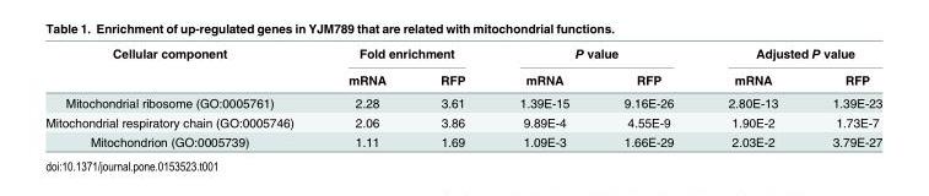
<table><thead><tr><td rowspan="2">Cellular component</td><td colspan="2">Fold enrichment</td><td colspan="2">P value</td><td colspan="2">Adjusted P value</td></tr><tr><td>mRNA</td><td>RFP</td><td>mRNA</td><td>RFP</td><td>mRNA</td><td>RFP</td></tr></thead><tbody><tr><td>Mitochondrial ribosome (GO:0005761)</td><td>2.28</td><td>3.61</td><td>1.39E-15</td><td>9.16E-26</td><td>2.80E-13</td><td>1.39E-23</td></tr><tr><td>Mitochondrial respiratory chain (GO:0005746)</td><td>2.06</td><td>3.86</td><td>9.89E-4</td><td>4.55E-9</td><td>1.90E-2</td><td>1.73E-7</td></tr><tr><td>Mitochondrion (GO:0005739)</td><td>1.11</td><td>1.69</td><td>1.09E-3</td><td>1.66E-29</td><td>2.03E-2</td><td>3.79E-27</td></tr></tbody></table>